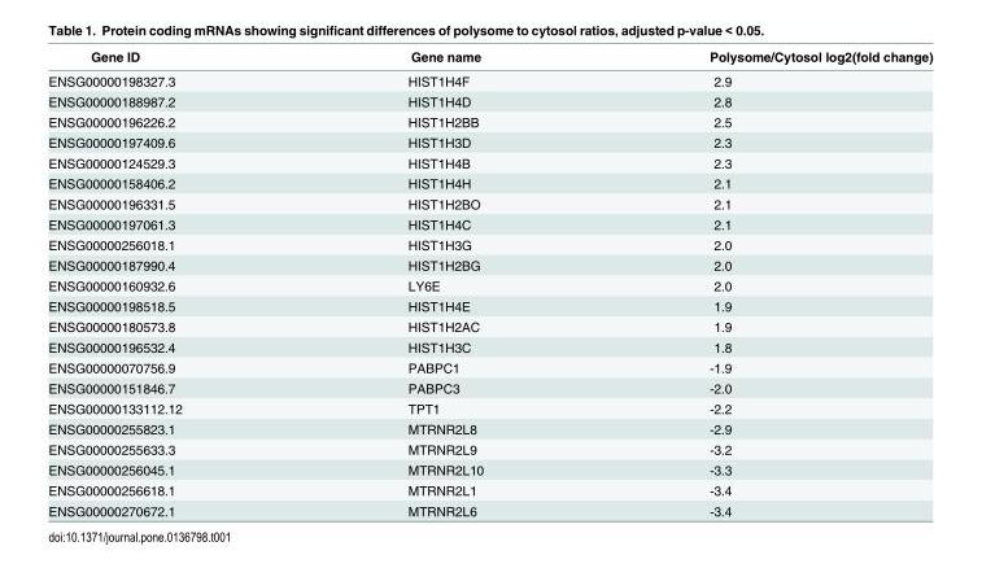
<table><thead><tr><td>Gene ID</td><td>Gene name</td><td>Polysome/Cytosol log2(fold change)</td></tr></thead><tbody><tr><td>ENSG00000198327.3</td><td>HIST1H4F</td><td>2.9</td></tr><tr><td>ENSG00000188987.2</td><td>HIST1H4D</td><td>2.8</td></tr><tr><td>ENSG00000196226.2</td><td>HIST1H2BB</td><td>2.5</td></tr><tr><td>ENSG00000197409.6</td><td>HIST1H3D</td><td>2.3</td></tr><tr><td>ENSG00000124529.3</td><td>HIST1H4B</td><td>2.3</td></tr><tr><td>ENSG00000158406.2</td><td>HIST1H4H</td><td>2.1</td></tr><tr><td>ENSG00000196331.5</td><td>HIST1H2BO</td><td>2.1</td></tr><tr><td>ENSG00000197061.3</td><td>HIST1H4C</td><td>2.1</td></tr><tr><td>ENSG00000256018.1</td><td>HIST1H3G</td><td>2.0</td></tr><tr><td>ENSG00000187990.4</td><td>HIST1H2BG</td><td>2.0</td></tr><tr><td>ENSG00000160932.6</td><td>LY6E</td><td>2.0</td></tr><tr><td>ENSG00000198518.5</td><td>HIST1H4E</td><td>1.9</td></tr><tr><td>ENSG00000180573.8</td><td>HIST1H2AC</td><td>1.9</td></tr><tr><td>ENSG00000196532.4</td><td>HIST1H3C</td><td>1.8</td></tr><tr><td>ENSG00000070756.9</td><td>PABPC1</td><td>-1.9</td></tr><tr><td>ENSG00000151846.7</td><td>PABPC3</td><td>-2.0</td></tr><tr><td>ENSG00000133112.12</td><td>TPT1</td><td>-2.2</td></tr><tr><td>ENSG00000255823.1</td><td>MTRNR2L8</td><td>-2.9</td></tr><tr><td>ENSG00000255633.3</td><td>MTRNR2L9</td><td>-3.2</td></tr><tr><td>ENSG00000256045.1</td><td>MTRNR2L10</td><td>-3.3</td></tr><tr><td>ENSG00000256618.1</td><td>MTRNR2L1</td><td>-3.4</td></tr><tr><td>ENSG00000270672.1</td><td>MTRNR2L6</td><td>-3.4</td></tr></tbody></table>